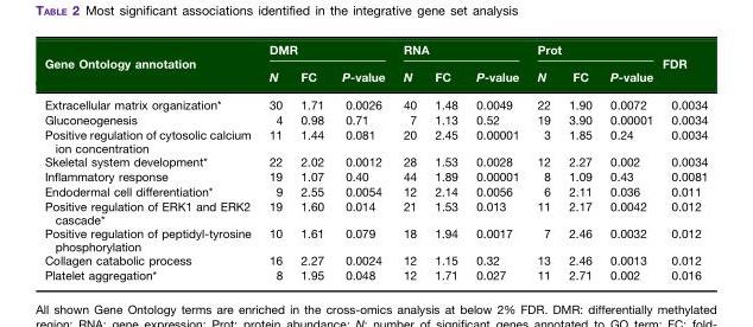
<table><thead><tr><td rowspan="2">Gene Ontology annotation</td><td colspan="3">DMR</td><td colspan="3">RNA</td><td colspan="3">Prot</td><td rowspan="2">FDR</td></tr><tr><td>N</td><td>FC</td><td>P-value</td><td>N</td><td>FC</td><td>P-value</td><td>N</td><td>FC</td><td>P-value</td></tr></thead><tbody><tr><td>Extracellular matrix organization*</td><td>30</td><td>1.71</td><td>0.0026</td><td>40</td><td>1.48</td><td>0.0049</td><td>22</td><td>1.90</td><td>0.0072</td><td>0.0034</td></tr><tr><td>Gluconeogenesis</td><td>4</td><td>0.98</td><td>0.71</td><td>7</td><td>1.13</td><td>0.52</td><td>19</td><td>3.90</td><td>0.00001</td><td>0.0034</td></tr><tr><td>Positive regulation of cytosolic calcium ion concentration</td><td>11</td><td>1.44</td><td>0.081</td><td>20</td><td>2.45</td><td>0.00001</td><td>3</td><td>1.85</td><td>0.24</td><td>0.0034</td></tr><tr><td>Skeletal system development*</td><td>22</td><td>2.02</td><td>0.0012</td><td>28</td><td>1.53</td><td>0.0028</td><td>12</td><td>2.27</td><td>0.002</td><td>0.0034</td></tr><tr><td>Inflammatory response</td><td>19</td><td>1.07</td><td>0.40</td><td>44</td><td>1.89</td><td>0.00001</td><td>8</td><td>1.09</td><td>0.43</td><td>0.0081</td></tr><tr><td>Endodermal cell differentiation*</td><td>9</td><td>2.55</td><td>0.0054</td><td>12</td><td>2.14</td><td>0.0056</td><td>6</td><td>2.11</td><td>0.036</td><td>0.011</td></tr><tr><td>Positive regulation of ERK1 and ERK2 cascade*</td><td>19</td><td>1.60</td><td>0.014</td><td>21</td><td>1.53</td><td>0.013</td><td>11</td><td>2.17</td><td>0.0042</td><td>0.012</td></tr><tr><td>Positive regulation of peptidyl-tyrosine phosphorylation</td><td>10</td><td>1.61</td><td>0.079</td><td>18</td><td>1.94</td><td>0.0017</td><td>7</td><td>2.46</td><td>0.0032</td><td>0.012</td></tr><tr><td>Collagen catabolic process</td><td>16</td><td>2.27</td><td>0.0024</td><td>12</td><td>1.15</td><td>0.32</td><td>13</td><td>2.46</td><td>0.0013</td><td>0.012</td></tr><tr><td>Platelet aggregation*</td><td>8</td><td>1.95</td><td>0.048</td><td>12</td><td>1.71</td><td>0.027</td><td>11</td><td>2.71</td><td>0.002</td><td>0.016</td></tr></tbody></table>